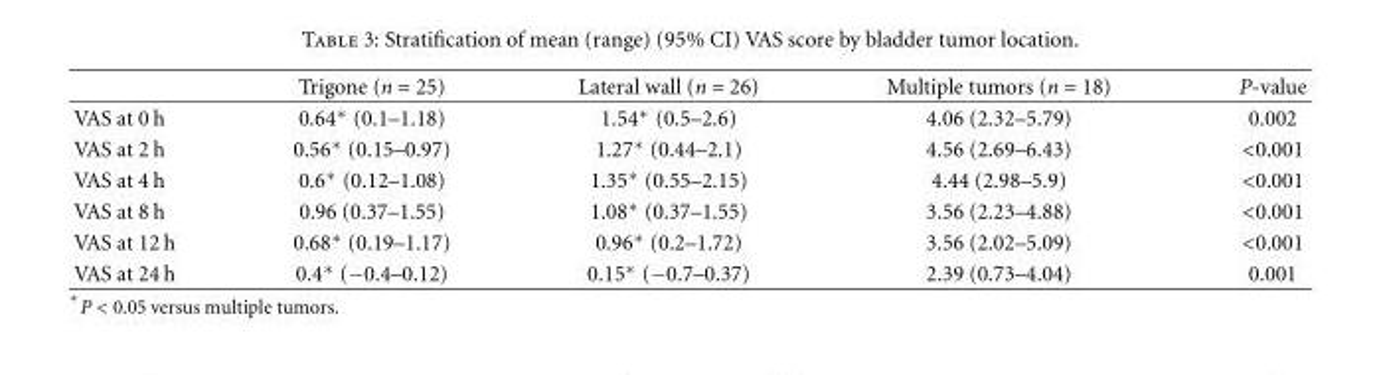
<table><thead><tr><td></td><td>Trigone (n = 25)</td><td>Lateral wall (n = 26)</td><td>Multiple tumors (n = 18)</td><td>P-value</td></tr></thead><tbody><tr><td>VAS at 0 h</td><td>0.64∗ (0.1–1.18)</td><td>1.54∗ (0.5–2.6)</td><td>4.06 (2.32–5.79)</td><td>0.002</td></tr><tr><td>VAS at 2 h</td><td>0.56∗ (0.15–0.97)</td><td>1.27∗ (0.44–2.1)</td><td>4.56 (2.69–6.43)</td><td>&lt;0.001</td></tr><tr><td>VAS at 4 h</td><td>0.6∗ (0.12–1.08)</td><td>1.35∗ (0.55–2.15)</td><td>4.44 (2.98–5.9)</td><td>&lt;0.001</td></tr><tr><td>VAS at 8 h</td><td>0.96 (0.37–1.55)</td><td>1.08∗ (0.37–1.55)</td><td>3.56 (2.23–4.88)</td><td>&lt;0.001</td></tr><tr><td>VAS at 12 h</td><td>0.68∗ (0.19–1.17)</td><td>0.96∗ (0.2–1.72)</td><td>3.56 (2.02–5.09)</td><td>&lt;0.001</td></tr><tr><td>VAS at 24 h</td><td>0.4∗ (−0.4–0.12)</td><td>0.15∗ (−0.7–0.37)</td><td>2.39 (0.73–4.04)</td><td>0.001</td></tr></tbody></table>